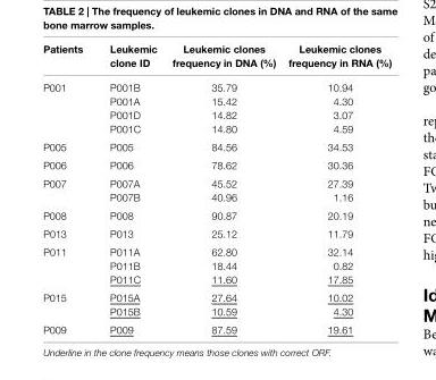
<table><thead><tr><td>Patients</td><td>leukemic clone iD</td><td>leukemic clones frequency in Dna (%)</td><td>leukemic clones frequency in rna (%)</td></tr></thead><tbody><tr><td rowspan="4">P001</td><td>P001B</td><td>35.79</td><td>10.94</td></tr><tr><td>P001A</td><td>15.42</td><td>4.30</td></tr><tr><td>P001D</td><td>14.82</td><td>3.07</td></tr><tr><td>P001C</td><td>14.80</td><td>4.59</td></tr><tr><td>P005</td><td>P005</td><td>84.56</td><td>34.53</td></tr><tr><td>P006</td><td>P006</td><td>78.62</td><td>30.36</td></tr><tr><td rowspan="2">P007</td><td>P007A</td><td>45.52</td><td>27.39</td></tr><tr><td>P007B</td><td>40.96</td><td>1.16</td></tr><tr><td>P008</td><td>P008</td><td>90.87</td><td>20.19</td></tr><tr><td>P013</td><td>P013</td><td>25.12</td><td>11.79</td></tr><tr><td rowspan="3">P011</td><td>P011A</td><td>62.80</td><td>32.14</td></tr><tr><td>P011B</td><td>18.44</td><td>0.82</td></tr><tr><td>P011C</td><td>11.60</td><td>17.85</td></tr><tr><td rowspan="2">P015</td><td>P015A</td><td>27.64</td><td>10.02</td></tr><tr><td>P015B</td><td>10.59</td><td>4.30</td></tr><tr><td>P009</td><td>P009</td><td>87.59</td><td>19.61</td></tr></tbody></table>